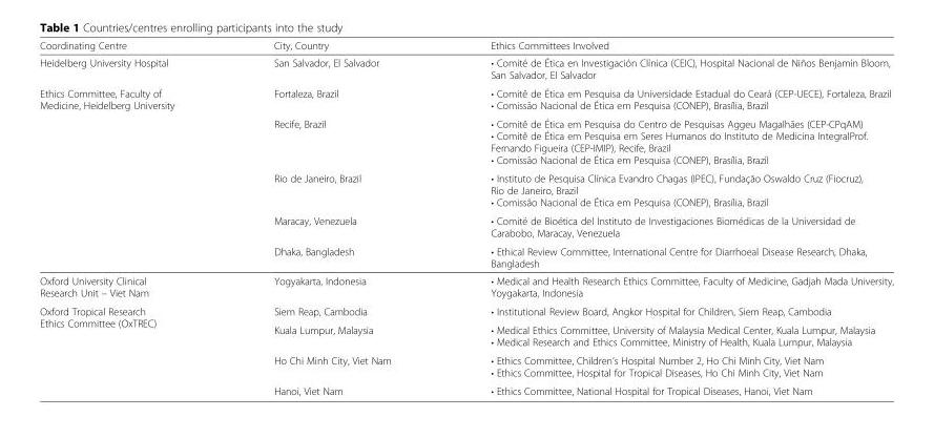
<table><thead><tr><td>Coordinating Centre</td><td>City, Country</td><td>Ethics Committees Involved</td></tr></thead><tbody><tr><td>Heidelberg University Hospital</td><td>San Salvador, El Salvador</td><td>• Comité de Ética en Investigación Clínica (CEIC), Hospital Nacional de Niños Benjamín Bloom, San Salvador, El Salvador</td></tr><tr><td rowspan="5">Ethics Committee, Faculty of Medicine, Heidelberg University</td><td>Fortaleza, Brazil</td><td>• Comitê de Ética em Pesquisa da Universidade Estadual do Ceará (CEP-UECE), Fortaleza, Brazil • Comissão Nacional de Ética em Pesquisa (CONEP), Brasília, Brazil</td></tr><tr><td>Recife, Brazil</td><td>• Comitê de Ética em Pesquisa do Centro de Pesquisas Aggeu Magalhães (CEP-CPqAM) • Comitê de Ética em Pesquisa em Seres Humanos do Instituto de Medicina IntegralProf. Fernando Figueira (CEP-IMIP), Recife, Brazil • Comissão Nacional de Ética em Pesquisa (CONEP), Brasília, Brazil</td></tr><tr><td>Rio de Janeiro, Brazil</td><td>• Instituto de Pesquisa Clínica Evandro Chagas (IPEC), Fundação Oswaldo Cruz (Fiocruz), Rio de Janeiro, Brazil • Comissão Nacional de Ética em Pesquisa (CONEP), Brasília, Brazil</td></tr><tr><td>Maracay, Venezuela</td><td>• Comité de Bioética del Instituto de Investigaciones Biomédicas de la Universidad de Carabobo, Maracay, Venezuela</td></tr><tr><td>Dhaka, Bangladesh</td><td>• Ethical Review Committee, International Centre for Diarrhoeal Disease Research, Dhaka, Bangladesh</td></tr><tr><td>Oxford University Clinical Research Unit – Viet Nam</td><td>Yogyakarta, Indonesia</td><td>• Medical and Health Research Ethics Committee, Faculty of Medicine, Gadjah Mada University, Yoygakarta, Indonesia</td></tr><tr><td rowspan="4">Oxford Tropical Research Ethics Committee (OxTREC)</td><td>Siem Reap, Cambodia</td><td>• Institutional Review Board, Angkor Hospital for Children, Siem Reap, Cambodia</td></tr><tr><td>Kuala Lumpur, Malaysia</td><td>• Medical Ethics Committee, University of Malaysia Medical Center, Kuala Lumpur, Malaysia • Medical Research and Ethics Committee, Ministry of Health, Kuala Lumpur, Malaysia</td></tr><tr><td>Ho Chi Minh City, Viet Nam</td><td>• Ethics Committee, Children’s Hospital Number 2, Ho Chi Minh City, Viet Nam • Ethics Committee, Hospital for Tropical Diseases, Ho Chi Minh City, Viet Nam</td></tr><tr><td>Hanoi, Viet Nam</td><td>• Ethics Committee, National Hospital for Tropical Diseases, Hanoi, Viet Nam</td></tr></tbody></table>